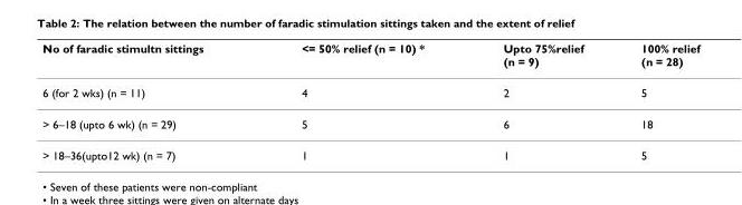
<table><thead><tr><td>No of faradic stimultn sittings</td><td>&lt;= 50% relief (n = 10) *</td><td>Upto 75%relief (n = 9)</td><td>100% relief (n = 28)</td></tr></thead><tbody><tr><td>6 (for 2 wks) (n = 11)</td><td>4</td><td>2</td><td>5</td></tr><tr><td>&gt; 6–18 (upto 6 wk) (n = 29)</td><td>5</td><td>6</td><td>18</td></tr><tr><td>&gt; 18–36(upto12 wk) (n = 7)</td><td>1</td><td>1</td><td>5</td></tr></tbody></table>